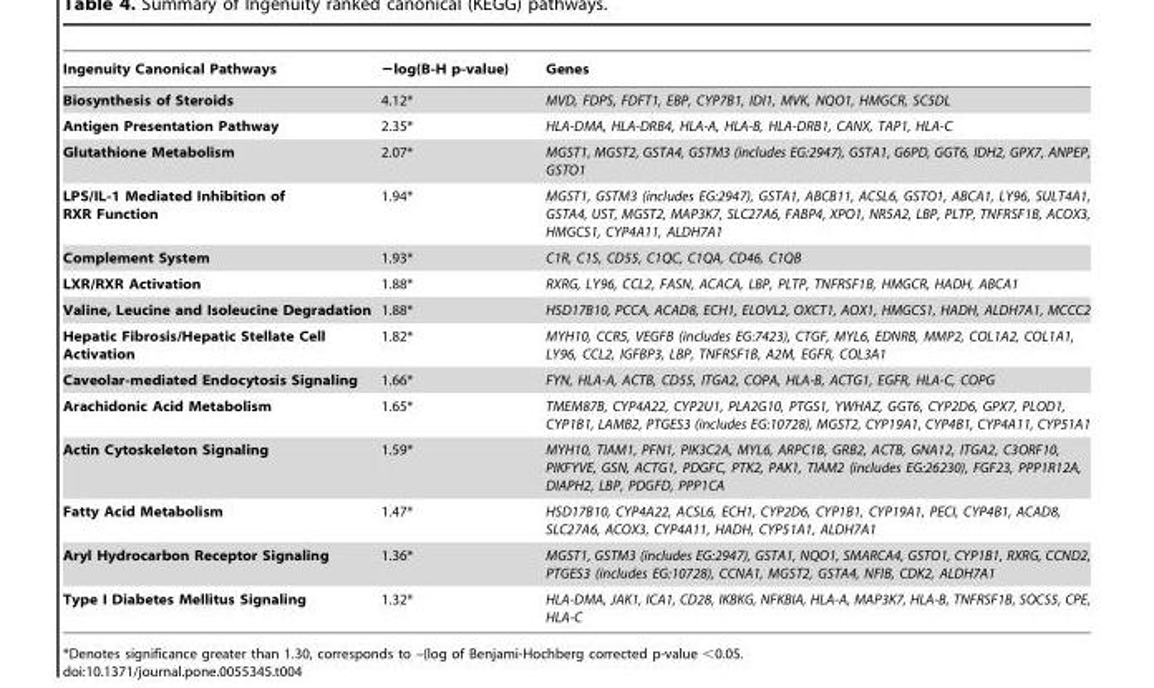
<table><thead><tr><td>Ingenuity Canonical Pathways</td><td>−log(B-H p-value)</td><td>Genes</td></tr></thead><tbody><tr><td>Biosynthesis of Steroids</td><td>4.12*</td><td>MVD, FDPS, FDFT1, EBP, CYP7B1, IDI1, MVK, NQO1, HMGCR, SC5DL</td></tr><tr><td>Antigen Presentation Pathway</td><td>2.35*</td><td>HLA-DMA, HLA-DRB4, HLA-A, HLA-B, HLA-DRB1, CANX, TAP1, HLA-C</td></tr><tr><td>Glutathione Metabolism</td><td>2.07*</td><td>MGST1, MGST2, GSTA4, GSTM3 (includes EG:2947), GSTA1, G6PD, GGT6, IDH2, GPX7, ANPEP, GSTO1</td></tr><tr><td>LPS/IL-1 Mediated Inhibition of RXR Function</td><td>1.94*</td><td>MGST1, GSTM3 (includes EG:2947), GSTA1, ABCB11, ACSL6, GSTO1, ABCA1, LY96, SULT4A1, GSTA4, UST, MGST2, MAP3K7, SLC27A6, FABP4, XPO1, NR5A2, LBP, PLTP, TNFRSF1B, ACOX3, HMGCS1, CYP4A11, ALDH7A1</td></tr><tr><td>Complement System</td><td>1.93*</td><td>C1R, C1S, CD55, C1QC, C1QA, CD46, C1QB</td></tr><tr><td>LXR/RXR Activation</td><td>1.88*</td><td>RXRG, LY96, CCL2, FASN, ACACA, LBP, PLTP, TNFRSF1B, HMGCR, HADH, ABCA1</td></tr><tr><td>Valine, Leucine and Isoleucine Degradation</td><td>1.88*</td><td>HSD17B10, PCCA, ACAD8, ECH1, ELOVL2, OXCT1, AOX1, HMGCS1, HADH, ALDH7A1, MCCC2</td></tr><tr><td>Hepatic Fibrosis/Hepatic Stellate Cell Activation</td><td>1.82*</td><td>MYH10, CCR5, VEGFB (includes EG:7423), CTGF, MYL6, EDNRB, MMP2, COL1A2, COL1A1, LY96, CCL2, IGFBP3, LBP, TNFRSF1B, A2M, EGFR, COL3A1</td></tr><tr><td>Caveolar-mediated Endocytosis Signaling</td><td>1.66*</td><td>FYN, HLA-A, ACTB, CD55, ITGA2, COPA, HLA-B, ACTG1, EGFR, HLA-C, COPG</td></tr><tr><td>Arachidonic Acid Metabolism</td><td>1.65*</td><td>TMEM87B, CYP4A22, CYP2U1, PLA2G10, PTGS1, YWHAZ, GGT6, CYP2D6, GPX7, PLOD1, CYP1B1, LAMB2, PTGES3 (includes EG:10728), MGST2, CYP19A1, CYP4B1, CYP4A11, CYP51A1</td></tr><tr><td>Actin Cytoskeleton Signaling</td><td>1.59*</td><td>MYH10, TIAM1, PFN1, PIK3C2A, MYL6, ARPC1B, GRB2, ACTB, GNA12, ITGA2, C3ORF10, PIKFYVE, GSN, ACTG1, PDGFC, PTK2, PAK1, TIAM2 (includes EG:26230), FGF23, PPP1R12A, DIAPH2, LBP, PDGFD, PPP1CA</td></tr><tr><td>Fatty Acid Metabolism</td><td>1.47*</td><td>HSD17B10, CYP4A22, ACSL6, ECH1, CYP2D6, CYP1B1, CYP19A1, PECI, CYP4B1, ACAD8, SLC27A6, ACOX3, CYP4A11, HADH, CYP51A1, ALDH7A1</td></tr><tr><td>Aryl Hydrocarbon Receptor Signaling</td><td>1.36*</td><td>MGST1, GSTM3 (includes EG:2947), GSTA1, NQO1, SMARCA4, GSTO1, CYP1B1, RXRG, CCND2, PTGES3 (includes EG:10728), CCNA1, MGST2, GSTA4, NFIB, CDK2, ALDH7A1</td></tr><tr><td>Type I Diabetes Mellitus Signaling</td><td>1.32*</td><td>HLA-DMA, JAK1, ICA1, CD28, IKBKG, NFKBIA, HLA-A, MAP3K7, HLA-B, TNFRSF1B, SOCS5, CPE, HLA-C</td></tr></tbody></table>